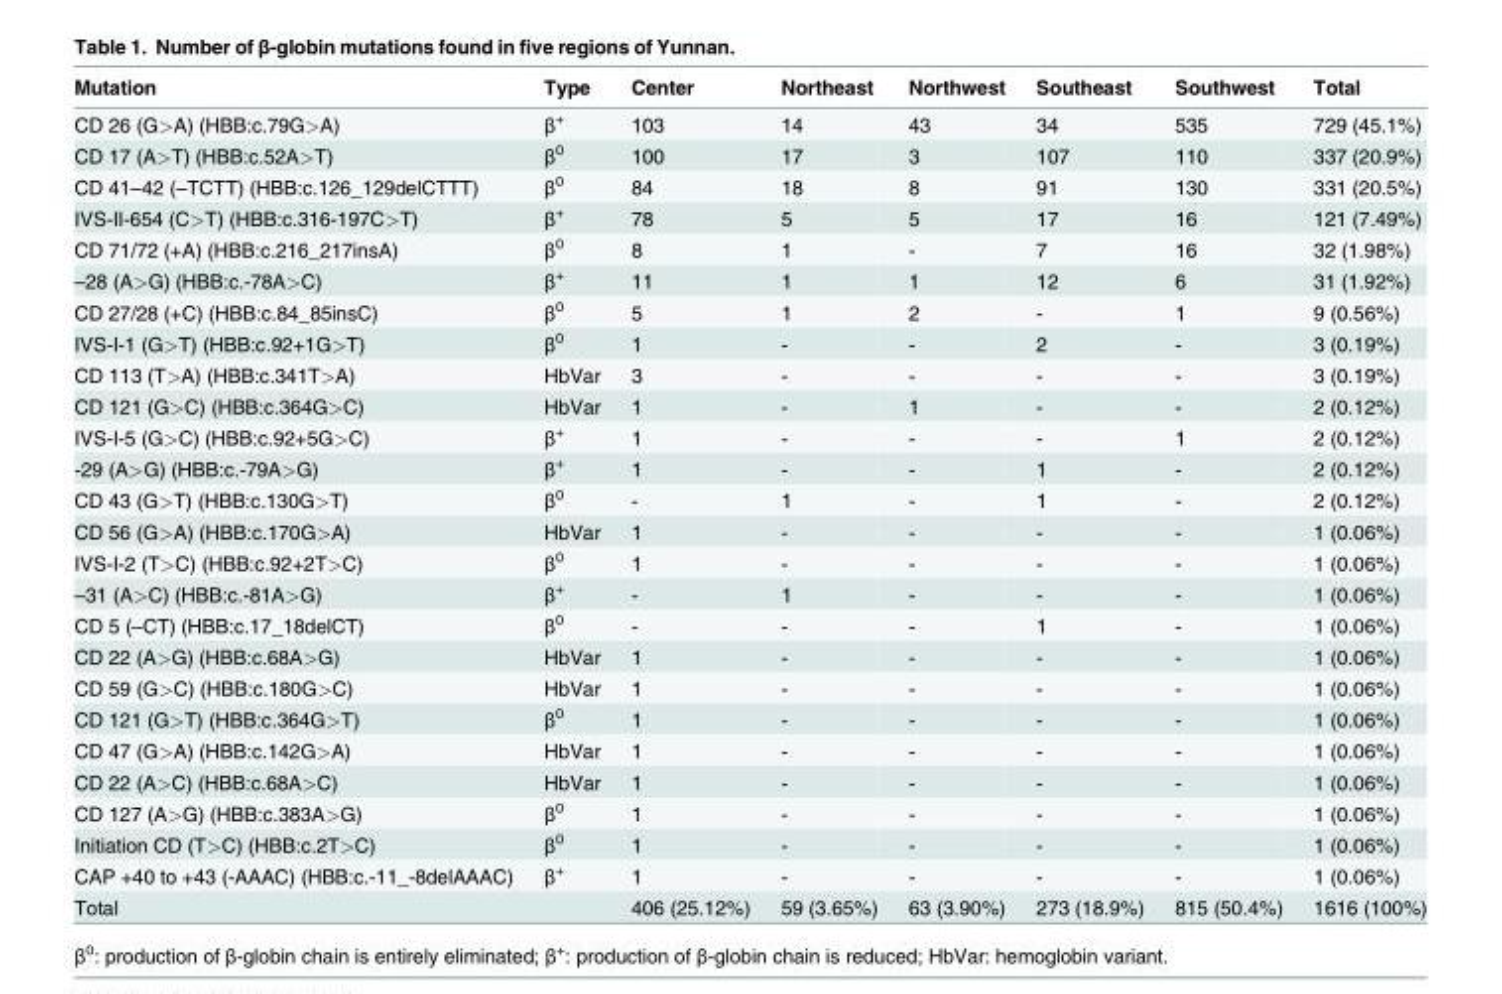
<table><thead><tr><td>Mutation</td><td>Type</td><td>Center</td><td>Northeast</td><td>Northwest</td><td>Southeast</td><td>Southwest</td><td>Total</td></tr></thead><tbody><tr><td>CD 26 (G&gt;A) (HBB:c.79G&gt;A)</td><td>β<sup>+</sup></td><td>103</td><td>14</td><td>43</td><td>34</td><td>535</td><td>729 (45.1%)</td></tr><tr><td>CD 17 (A&gt;T) (HBB:c.52A&gt;T)</td><td>β<sup>0</sup></td><td>100</td><td>17</td><td>3</td><td>107</td><td>110</td><td>337 (20.9%)</td></tr><tr><td>CD 41–42 (–TCTT) (HBB:c.126_129delCTTT)</td><td>β<sup>0</sup></td><td>84</td><td>18</td><td>8</td><td>91</td><td>130</td><td>331 (20.5%)</td></tr><tr><td>IVS-II-654 (C&gt;T) (HBB:c.316-197C&gt;T)</td><td>β<sup>+</sup></td><td>78</td><td>5</td><td>5</td><td>17</td><td>16</td><td>121 (7.49%)</td></tr><tr><td>CD 71/72 (+A) (HBB:c.216_217insA)</td><td>β<sup>0</sup></td><td>8</td><td>1</td><td>-</td><td>7</td><td>16</td><td>32 (1.98%)</td></tr><tr><td>–28 (A&gt;G) (HBB:c.-78A&gt;C)</td><td>β<sup>+</sup></td><td>11</td><td>1</td><td>1</td><td>12</td><td>6</td><td>31 (1.92%)</td></tr><tr><td>CD 27/28 (+C) (HBB:c.84_85insC)</td><td>β<sup>0</sup></td><td>5</td><td>1</td><td>2</td><td>-</td><td>1</td><td>9 (0.56%)</td></tr><tr><td>IVS-I-1 (G&gt;T) (HBB:c.92+1G&gt;T)</td><td>β<sup>0</sup></td><td>1</td><td>-</td><td>-</td><td>2</td><td>-</td><td>3 (0.19%)</td></tr><tr><td>CD 113 (T&gt;A) (HBB:c.341T&gt;A)</td><td>HbVar</td><td>3</td><td>-</td><td>-</td><td>-</td><td>-</td><td>3 (0.19%)</td></tr><tr><td>CD 121 (G&gt;C) (HBB:c.364G&gt;C)</td><td>HbVar</td><td>1</td><td>-</td><td>1</td><td>-</td><td>-</td><td>2 (0.12%)</td></tr><tr><td>IVS-I-5 (G&gt;C) (HBB:c.92+5G&gt;C)</td><td>β<sup>+</sup></td><td>1</td><td>-</td><td>-</td><td>-</td><td>1</td><td>2 (0.12%)</td></tr><tr><td>-29 (A&gt;G) (HBB:c.-79A&gt;G)</td><td>β<sup>+</sup></td><td>1</td><td>-</td><td>-</td><td>1</td><td>-</td><td>2 (0.12%)</td></tr><tr><td>CD 43 (G&gt;T) (HBB:c.130G&gt;T)</td><td>β<sup>0</sup></td><td>-</td><td>1</td><td>-</td><td>1</td><td>-</td><td>2 (0.12%)</td></tr><tr><td>CD 56 (G&gt;A) (HBB:c.170G&gt;A)</td><td>HbVar</td><td>1</td><td>-</td><td>-</td><td>-</td><td>-</td><td>1 (0.06%)</td></tr><tr><td>IVS-I-2 (T&gt;C) (HBB:c.92+2T&gt;C)</td><td>β<sup>0</sup></td><td>1</td><td>-</td><td>-</td><td>-</td><td>-</td><td>1 (0.06%)</td></tr><tr><td>–31 (A&gt;C) (HBB:c.-81A&gt;G)</td><td>β<sup>+</sup></td><td>-</td><td>1</td><td>-</td><td>-</td><td>-</td><td>1 (0.06%)</td></tr><tr><td>CD 5 (–CT) (HBB:c.17_18delCT)</td><td>β<sup>0</sup></td><td>-</td><td>-</td><td>-</td><td>1</td><td>-</td><td>1 (0.06%)</td></tr><tr><td>CD 22 (A&gt;G) (HBB:c.68A&gt;G)</td><td>HbVar</td><td>1</td><td>-</td><td>-</td><td>-</td><td>-</td><td>1 (0.06%)</td></tr><tr><td>CD 59 (G&gt;C) (HBB:c.180G&gt;C)</td><td>HbVar</td><td>1</td><td>-</td><td>-</td><td>-</td><td>-</td><td>1 (0.06%)</td></tr><tr><td>CD 121 (G&gt;T) (HBB:c.364G&gt;T)</td><td>β<sup>0</sup></td><td>1</td><td>-</td><td>-</td><td>-</td><td>-</td><td>1 (0.06%)</td></tr><tr><td>CD 47 (G&gt;A) (HBB:c.142G&gt;A)</td><td>HbVar</td><td>1</td><td>-</td><td>-</td><td>-</td><td>-</td><td>1 (0.06%)</td></tr><tr><td>CD 22 (A&gt;C) (HBB:c.68A&gt;C)</td><td>HbVar</td><td>1</td><td>-</td><td>-</td><td>-</td><td>-</td><td>1 (0.06%)</td></tr><tr><td>CD 127 (A&gt;G) (HBB:c.383A&gt;G)</td><td>β<sup>0</sup></td><td>1</td><td>-</td><td>-</td><td>-</td><td>-</td><td>1 (0.06%)</td></tr><tr><td>Initiation CD (T&gt;C) (HBB:c.2T&gt;C)</td><td>β<sup>0</sup></td><td>1</td><td>-</td><td>-</td><td>-</td><td>-</td><td>1 (0.06%)</td></tr><tr><td>CAP +40 to +43 (-AAAC) (HBB:c.-11_-8delAAAC)</td><td>β<sup>+</sup></td><td>1</td><td>-</td><td>-</td><td>-</td><td>-</td><td>1 (0.06%)</td></tr><tr><td>Total</td><td></td><td>406 (25.12%)</td><td>59 (3.65%)</td><td>63 (3.90%)</td><td>273 (18.9%)</td><td>815 (50.4%)</td><td>1616 (100%)</td></tr></tbody></table>